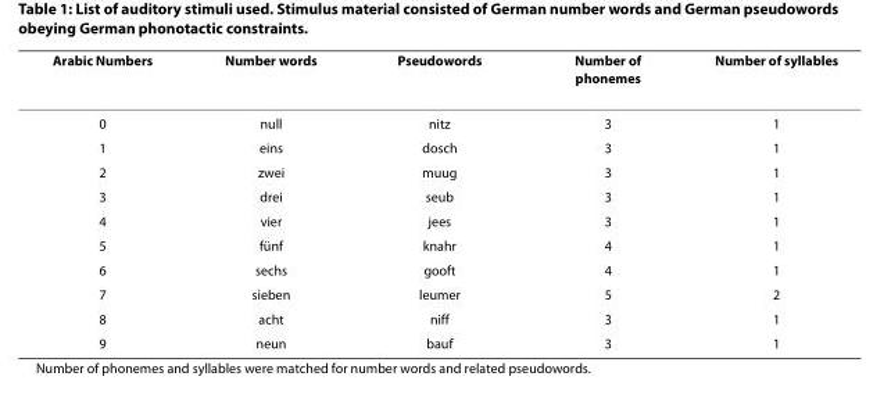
<table><thead><tr><td>Arabic Numbers</td><td>Number words</td><td>Pseudowords</td><td>Number of phonemes</td><td>Number of syllables</td></tr></thead><tbody><tr><td>0</td><td>null</td><td>nitz</td><td>3</td><td>1</td></tr><tr><td>1</td><td>eins</td><td>dosch</td><td>3</td><td>1</td></tr><tr><td>2</td><td>zwei</td><td>muug</td><td>3</td><td>1</td></tr><tr><td>3</td><td>drei</td><td>seub</td><td>3</td><td>1</td></tr><tr><td>4</td><td>vier</td><td>jees</td><td>3</td><td>1</td></tr><tr><td>5</td><td>fünf</td><td>knahr</td><td>4</td><td>1</td></tr><tr><td>6</td><td>sechs</td><td>gooft</td><td>4</td><td>1</td></tr><tr><td>7</td><td>sieben</td><td>leumer</td><td>5</td><td>2</td></tr><tr><td>8</td><td>acht</td><td>niff</td><td>3</td><td>1</td></tr><tr><td>9</td><td>neun</td><td>bauf</td><td>3</td><td>1</td></tr></tbody></table>